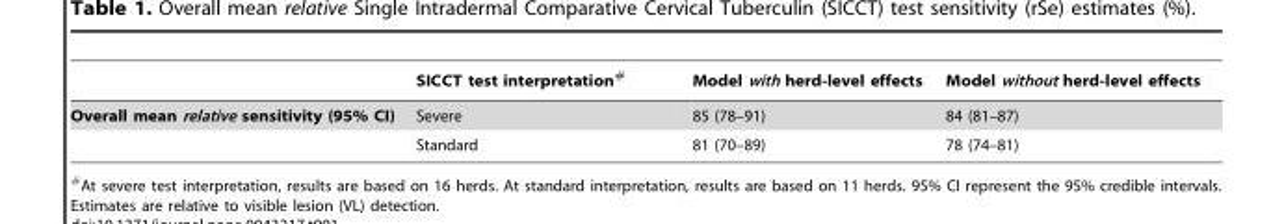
<table><thead><tr><td></td><td>SICCT test interpretation#</td><td>Model with herd-level effects</td><td>Model without herd-level effects</td></tr></thead><tbody><tr><td rowspan="2">Overall mean relative sensitivity (95% CI)</td><td>Severe</td><td>85 (78–91)</td><td>84 (81–87)</td></tr><tr><td>Standard</td><td>81 (70–89)</td><td>78 (74–81)</td></tr></tbody></table>